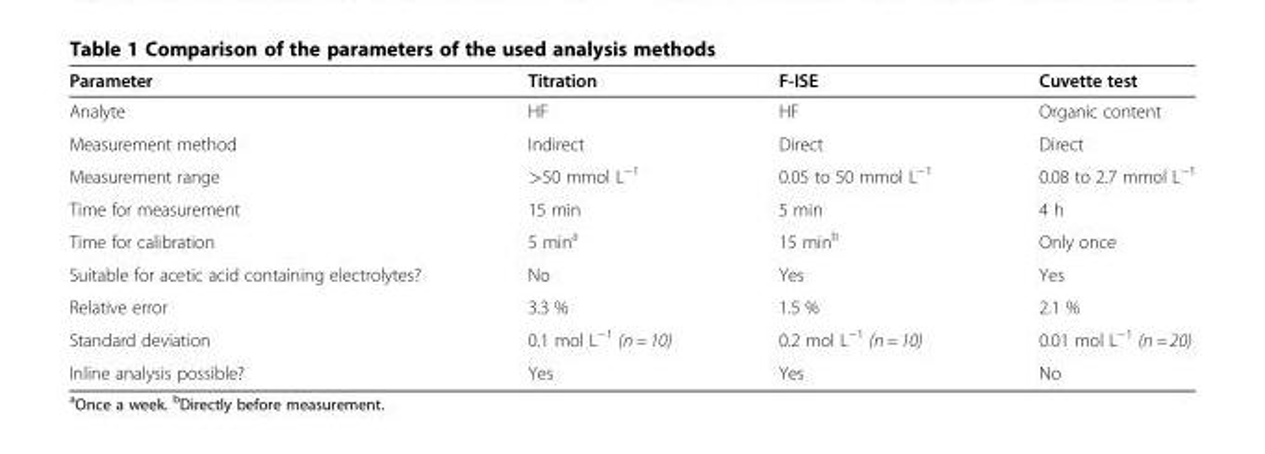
<table><thead><tr><td>Parameter</td><td>Titration</td><td>F-ISE</td><td>Cuvette test</td></tr></thead><tbody><tr><td>Analyte</td><td>HF</td><td>HF</td><td>Organic content</td></tr><tr><td>Measurement method</td><td>Indirect</td><td>Direct</td><td>Direct</td></tr><tr><td>Measurement range</td><td>&gt;50 mmol L<sup>−1</sup></td><td>0.05 to 50 mmol L<sup>−1</sup></td><td>0.08 to 2.7 mmol L<sup>−1</sup></td></tr><tr><td>Time for measurement</td><td>15 min</td><td>5 min</td><td>4 h</td></tr><tr><td>Time for calibration</td><td>5 min<sup>a</sup></td><td>15 min<sup>b</sup></td><td>Only once</td></tr><tr><td>Suitable for acetic acid containing electrolytes?</td><td>No</td><td>Yes</td><td>Yes</td></tr><tr><td>Relative error</td><td>3.3 %</td><td>1.5 %</td><td>2.1 %</td></tr><tr><td>Standard deviation</td><td>0.1 mol L<sup>−1</sup> (n = 10)</td><td>0.2 mol L<sup>−1</sup> (n = 10)</td><td>0.01 mol L<sup>−1</sup> (n = 20)</td></tr><tr><td>Inline analysis possible?</td><td>Yes</td><td>Yes</td><td>No</td></tr></tbody></table>